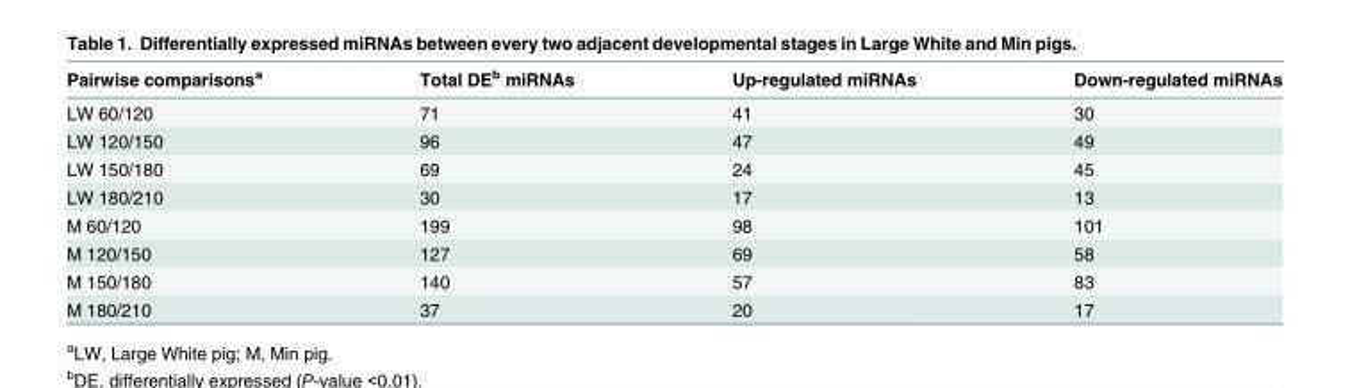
<table><thead><tr><td>Pairwise comparisons<sup>a</sup></td><td>Total DE<sup>b</sup> miRNAs</td><td>Up-regulated miRNAs</td><td>Down-regulated miRNAs</td></tr></thead><tbody><tr><td>LW 60/120</td><td>71</td><td>41</td><td>30</td></tr><tr><td>LW 120/150</td><td>96</td><td>47</td><td>49</td></tr><tr><td>LW 150/180</td><td>69</td><td>24</td><td>45</td></tr><tr><td>LW 180/210</td><td>30</td><td>17</td><td>13</td></tr><tr><td>M 60/120</td><td>199</td><td>98</td><td>101</td></tr><tr><td>M 120/150</td><td>127</td><td>69</td><td>58</td></tr><tr><td>M 150/180</td><td>140</td><td>57</td><td>83</td></tr><tr><td>M 180/210</td><td>37</td><td>20</td><td>17</td></tr></tbody></table>